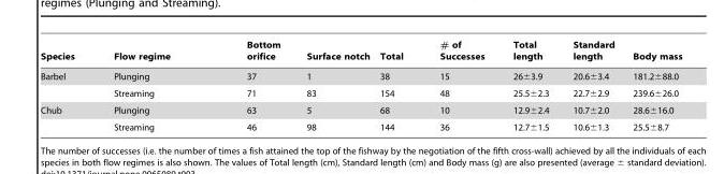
<table><thead><tr><td>Species</td><td>Flow regime</td><td>Bottom orifice</td><td>Surface notch</td><td>Total</td><td># of Successes</td><td>Total length</td><td>Standard length</td><td>Body mass</td></tr></thead><tbody><tr><td rowspan="2">Barbel</td><td>Plunging</td><td>37</td><td>1</td><td>38</td><td>15</td><td>26±3.9</td><td>20.6±3.4</td><td>181.2±88.0</td></tr><tr><td>Streaming</td><td>71</td><td>83</td><td>154</td><td>48</td><td>25.5±2.3</td><td>22.7±2.9</td><td>239.6±26.0</td></tr><tr><td rowspan="2">Chub</td><td>Plunging</td><td>63</td><td>5</td><td>68</td><td>10</td><td>12.9±2.4</td><td>10.7±2.0</td><td>28.6±16.0</td></tr><tr><td>Streaming</td><td>46</td><td>98</td><td>144</td><td>36</td><td>12.7±1.5</td><td>10.6±1.3</td><td>25.5±8.7</td></tr></tbody></table>